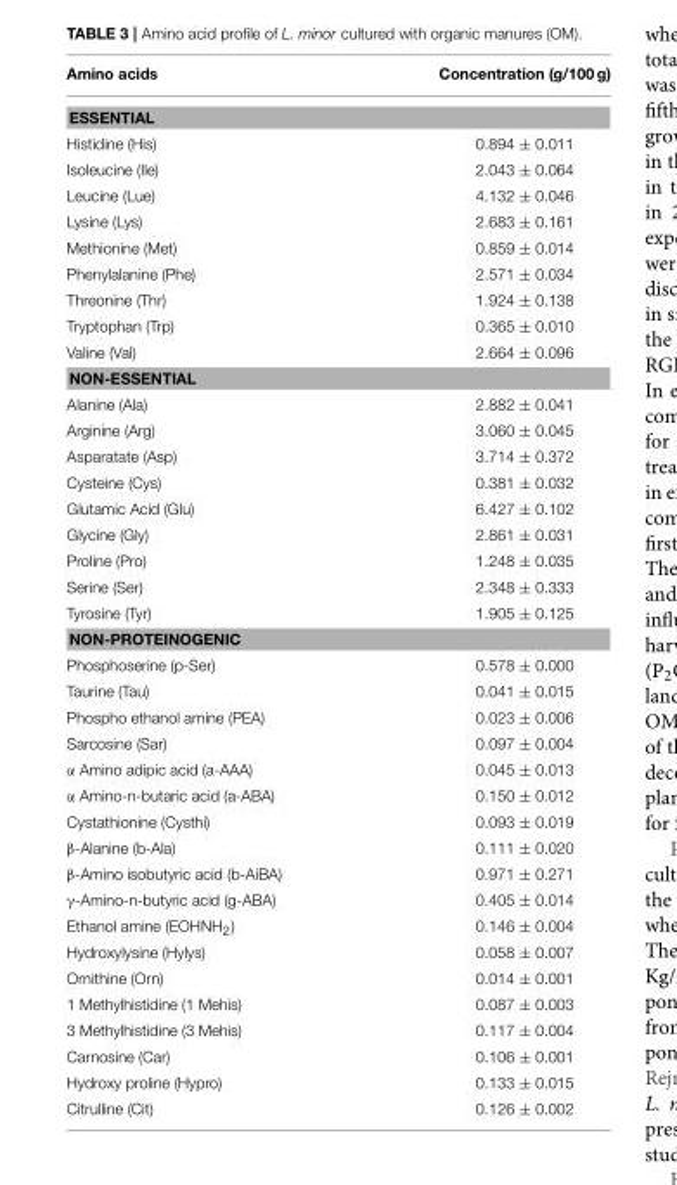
<table><thead><tr><td>Amino acids</td><td>Concentration (g/100 g)</td></tr></thead><tbody><tr><td colspan="2">ESSENTIAL</td></tr><tr><td>Histidine (His)</td><td>0.894 ± 0.011</td></tr><tr><td>Isoleucine (Ile)</td><td>2.043 ± 0.064</td></tr><tr><td>Leucine (Lue)</td><td>4.132 ± 0.046</td></tr><tr><td>Lysine (Lys)</td><td>2.683 ± 0.161</td></tr><tr><td>Methionine (Met)</td><td>0.859 ± 0.014</td></tr><tr><td>Phenylalanine (Phe)</td><td>2.571 ± 0.034</td></tr><tr><td>Threonine (Thr)</td><td>1.924 ± 0.138</td></tr><tr><td>Tryptophan (Trp)</td><td>0.365 ± 0.010</td></tr><tr><td>Valine (Val)</td><td>2.664 ± 0.096</td></tr><tr><td colspan="2">NON-ESSENTIAL</td></tr><tr><td>Alanine (Ala)</td><td>2.882 ± 0.041</td></tr><tr><td>Arginine (Arg)</td><td>3.060 ± 0.045</td></tr><tr><td>Asparatate (Asp)</td><td>3.714 ± 0.372</td></tr><tr><td>Cysteine (Cys)</td><td>0.381 ± 0.032</td></tr><tr><td>Glutamic Acid (Glu)</td><td>6.427 ± 0.102</td></tr><tr><td>Glycine (Gly)</td><td>2.861 ± 0.031</td></tr><tr><td>Proline (Pro)</td><td>1.248 ± 0.035</td></tr><tr><td>Serine (Ser)</td><td>2.348 ± 0.333</td></tr><tr><td>Tyrosine (Tyr)</td><td>1.905 ± 0.125</td></tr><tr><td colspan="2">NON-PROTEINOGENIC</td></tr><tr><td>Phosphoserine (p-Ser)</td><td>0.578 ± 0.000</td></tr><tr><td>Taurine (Tau)</td><td>0.041 ± 0.015</td></tr><tr><td>Phospho ethanol amine (PEA)</td><td>0.023 ± 0.006</td></tr><tr><td>Sarcosine (Sar)</td><td>0.097 ± 0.004</td></tr><tr><td>α Amino adipic acid (a-AAA)</td><td>0.045 ± 0.013</td></tr><tr><td>α Amino-n-butaric acid (a-ABA)</td><td>0.150 ± 0.012</td></tr><tr><td>Cystathionine (Cysthi)</td><td>0.093 ± 0.019</td></tr><tr><td>β-Alanine (b-Ala)</td><td>0.111 ± 0.020</td></tr><tr><td>β-Amino isobutyric acid (b-AiBA)</td><td>0.971 ± 0.271</td></tr><tr><td>γ-Amino-n-butyric acid (g-ABA)</td><td>0.405 ± 0.014</td></tr><tr><td>Ethanol amine (EOHNH<sub>2</sub>)</td><td>0.146 ± 0.004</td></tr><tr><td>Hydroxylysine (Hylys)</td><td>0.058 ± 0.007</td></tr><tr><td>Ornithine (Orn)</td><td>0.014 ± 0.001</td></tr><tr><td>1 Methylhistidine (1 Mehis)</td><td>0.087 ± 0.003</td></tr><tr><td>3 Methylhistidine (3 Mehis)</td><td>0.117 ± 0.004</td></tr><tr><td>Carnosine (Car)</td><td>0.106 ± 0.001</td></tr><tr><td>Hydroxy proline (Hypro)</td><td>0.133 ± 0.015</td></tr><tr><td>Citrulline (Cit)</td><td>0.126 ± 0.002</td></tr></tbody></table>